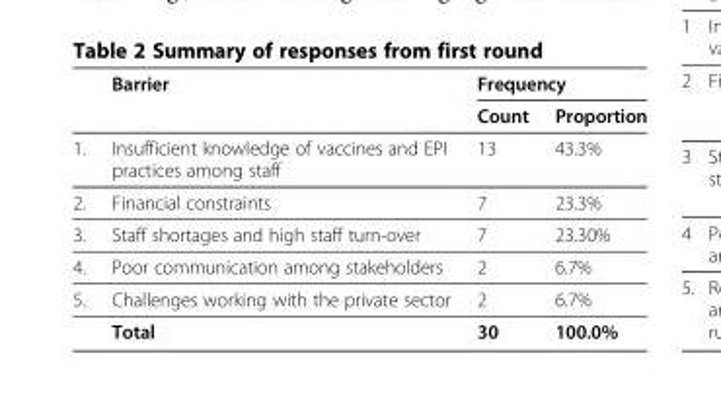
<table><thead><tr><td rowspan="2"></td><td rowspan="2">Barrier</td><td colspan="2">Frequency</td></tr><tr><td>Count</td><td>Proportion</td></tr></thead><tbody><tr><td>1.</td><td>Insufficient knowledge of vaccines and EPI practices among staff</td><td>13</td><td>43.3%</td></tr><tr><td>2.</td><td>Financial constraints</td><td>7</td><td>23.3%</td></tr><tr><td>3.</td><td>Staff shortages and high staff turn-over</td><td>7</td><td>23.30%</td></tr><tr><td>4.</td><td>Poor communication among stakeholders</td><td>2</td><td>6.7%</td></tr><tr><td rowspan="2">5.</td><td>Challenges working with the private sector</td><td>2</td><td>6.7%</td></tr><tr><td>Total</td><td>30</td><td>100.0%</td></tr></tbody></table>